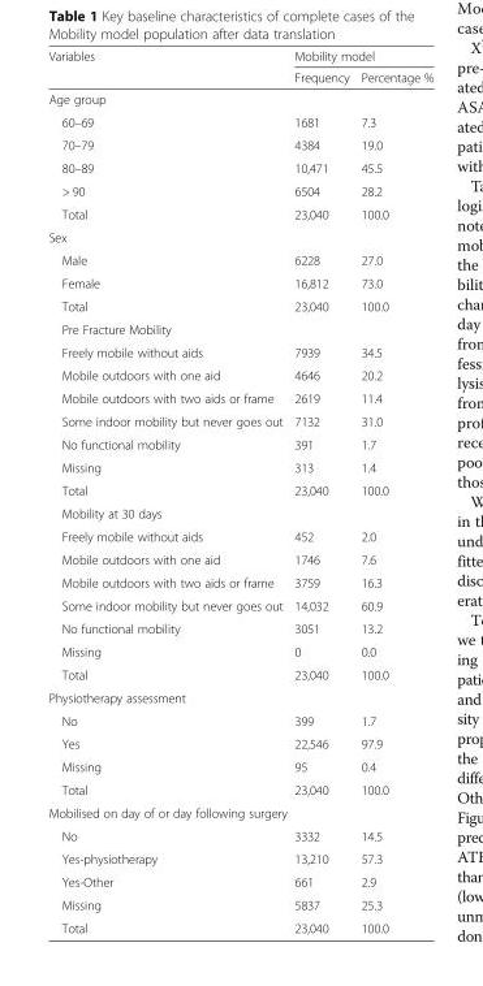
<table><thead><tr><td rowspan="2">Variables</td><td colspan="2">Mobility model</td></tr><tr><td>Frequency</td><td>Percentage %</td></tr></thead><tbody><tr><td colspan="3">Age group</td></tr><tr><td>60–69</td><td>1681</td><td>7.3</td></tr><tr><td>70–79</td><td>4384</td><td>19.0</td></tr><tr><td>80–89</td><td>10,471</td><td>45.5</td></tr><tr><td>&gt; 90</td><td>6504</td><td>28.2</td></tr><tr><td>Total</td><td>23,040</td><td>100.0</td></tr><tr><td colspan="3">Sex</td></tr><tr><td>Male</td><td>6228</td><td>27.0</td></tr><tr><td>Female</td><td>16,812</td><td>73.0</td></tr><tr><td>Total</td><td>23,040</td><td>100.0</td></tr><tr><td colspan="3">Pre Fracture Mobility</td></tr><tr><td>Freely mobile without aids</td><td>7939</td><td>34.5</td></tr><tr><td>Mobile outdoors with one aid</td><td>4646</td><td>20.2</td></tr><tr><td>Mobile outdoors with two aids or frame</td><td>2619</td><td>11.4</td></tr><tr><td>Some indoor mobility but never goes out</td><td>7132</td><td>31.0</td></tr><tr><td>No functional mobility</td><td>391</td><td>1.7</td></tr><tr><td>Missing</td><td>313</td><td>1.4</td></tr><tr><td>Total</td><td>23,040</td><td>100.0</td></tr><tr><td colspan="3">Mobility at 30 days</td></tr><tr><td>Freely mobile without aids</td><td>452</td><td>2.0</td></tr><tr><td>Mobile outdoors with one aid</td><td>1746</td><td>7.6</td></tr><tr><td>Mobile outdoors with two aids or frame</td><td>3759</td><td>16.3</td></tr><tr><td>Some indoor mobility but never goes out</td><td>14,032</td><td>60.9</td></tr><tr><td>No functional mobility</td><td>3051</td><td>13.2</td></tr><tr><td>Missing</td><td>0</td><td>0.0</td></tr><tr><td>Total</td><td>23,040</td><td>100.0</td></tr><tr><td colspan="3">Physiotherapy assessment</td></tr><tr><td>No</td><td>399</td><td>1.7</td></tr><tr><td>Yes</td><td>22,546</td><td>97.9</td></tr><tr><td>Missing</td><td>95</td><td>0.4</td></tr><tr><td>Total</td><td>23,040</td><td>100.0</td></tr><tr><td colspan="3">Mobilised on day of or day following surgery</td></tr><tr><td>No</td><td>3332</td><td>14.5</td></tr><tr><td>Yes-physiotherapy</td><td>13,210</td><td>57.3</td></tr><tr><td>Yes-Other</td><td>661</td><td>2.9</td></tr><tr><td>Missing</td><td>5837</td><td>25.3</td></tr><tr><td>Total</td><td>23,040</td><td>100.0</td></tr></tbody></table>